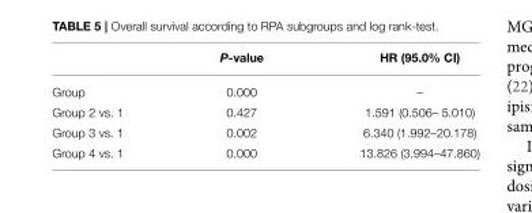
<table><thead><tr><td></td><td>P-value</td><td>HR (95.0% CI)</td></tr></thead><tbody><tr><td>Group</td><td>0.000</td><td>–</td></tr><tr><td>Group 2 vs. 1</td><td>0.427</td><td>1.591 (0.506– 5.010)</td></tr><tr><td>Group 3 vs. 1</td><td>0.002</td><td>6.340 (1.992–20.178)</td></tr><tr><td>Group 4 vs. 1</td><td>0.000</td><td>13.826 (3.994–47.860)</td></tr></tbody></table>